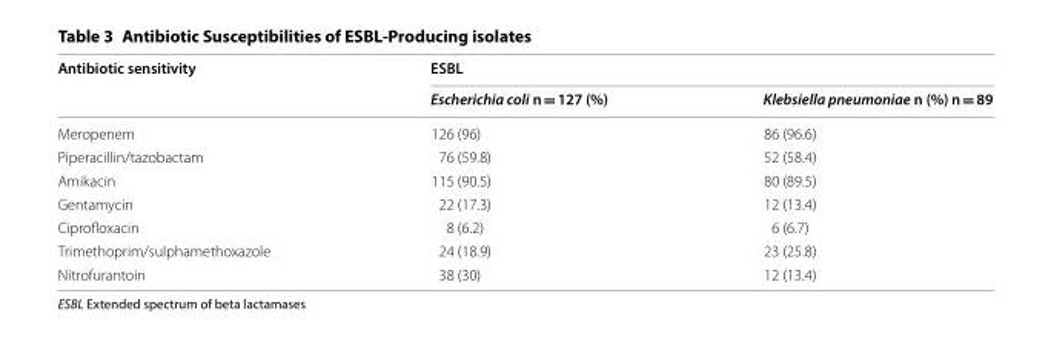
<table><thead><tr><td rowspan="2">Antibiotic sensitivity</td><td colspan="2">ESBL</td></tr><tr><td>Escherichia coli n = 127 (%)</td><td>Klebsiella pneumoniae n (%) n = 89</td></tr></thead><tbody><tr><td>Meropenem</td><td>126 (96)</td><td>86 (96.6)</td></tr><tr><td>Piperacillin/tazobactam</td><td>76 (59.8)</td><td>52 (58.4)</td></tr><tr><td>Amikacin</td><td>115 (90.5)</td><td>80 (89.5)</td></tr><tr><td>Gentamycin</td><td>22 (17.3)</td><td>12 (13.4)</td></tr><tr><td>Ciprofloxacin</td><td>8 (6.2)</td><td>6 (6.7)</td></tr><tr><td>Trimethoprim/sulphamethoxazole</td><td>24 (18.9)</td><td>23 (25.8)</td></tr><tr><td>Nitrofurantoin</td><td>38 (30)</td><td>12 (13.4)</td></tr></tbody></table>